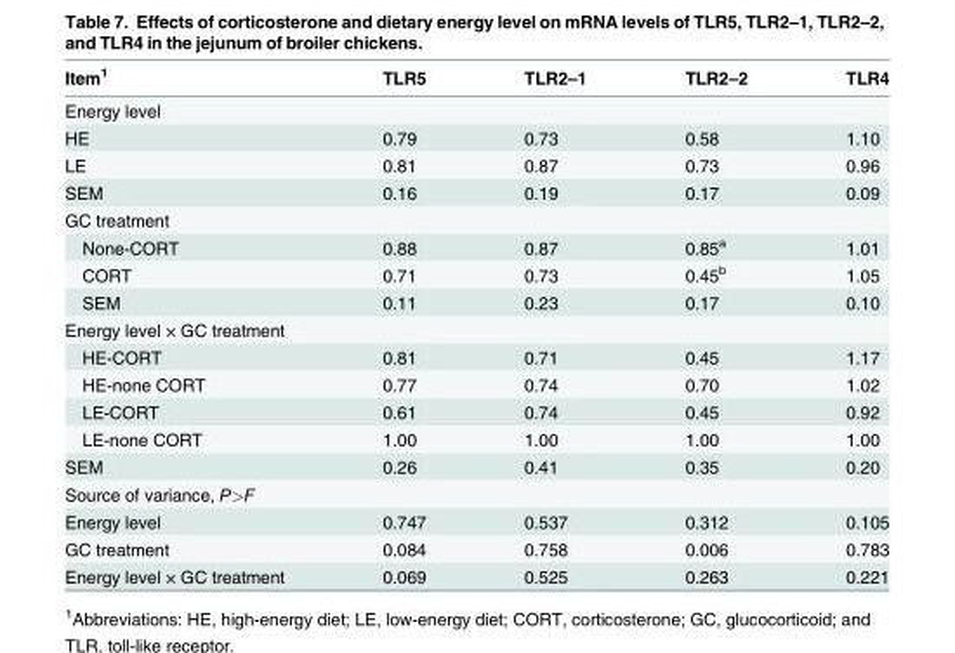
<table><thead><tr><td>Item<sup>1</sup></td><td>TLR5</td><td>TLR2–1</td><td>TLR2–2</td><td>TLR4</td></tr></thead><tbody><tr><td colspan="5">Energy level</td></tr><tr><td>HE</td><td>0.79</td><td>0.73</td><td>0.58</td><td>1.10</td></tr><tr><td>LE</td><td>0.81</td><td>0.87</td><td>0.73</td><td>0.96</td></tr><tr><td>SEM</td><td>0.16</td><td>0.19</td><td>0.17</td><td>0.09</td></tr><tr><td colspan="5">GC treatment</td></tr><tr><td>None-CORT</td><td>0.88</td><td>0.87</td><td>0.85<sup>a</sup></td><td>1.01</td></tr><tr><td>CORT</td><td>0.71</td><td>0.73</td><td>0.45<sup>b</sup></td><td>1.05</td></tr><tr><td>SEM</td><td>0.11</td><td>0.23</td><td>0.17</td><td>0.10</td></tr><tr><td colspan="5">Energy level × GC treatment</td></tr><tr><td>HE-CORT</td><td>0.81</td><td>0.71</td><td>0.45</td><td>1.17</td></tr><tr><td>HE-none CORT</td><td>0.77</td><td>0.74</td><td>0.70</td><td>1.02</td></tr><tr><td>LE-CORT</td><td>0.61</td><td>0.74</td><td>0.45</td><td>0.92</td></tr><tr><td>LE-none CORT</td><td>1.00</td><td>1.00</td><td>1.00</td><td>1.00</td></tr><tr><td>SEM</td><td>0.26</td><td>0.41</td><td>0.35</td><td>0.20</td></tr><tr><td colspan="5">Source of variance, P&gt;F</td></tr><tr><td>Energy level</td><td>0.747</td><td>0.537</td><td>0.312</td><td>0.105</td></tr><tr><td>GC treatment</td><td>0.084</td><td>0.758</td><td>0.006</td><td>0.783</td></tr><tr><td>Energy level × GC treatment</td><td>0.069</td><td>0.525</td><td>0.263</td><td>0.221</td></tr></tbody></table>